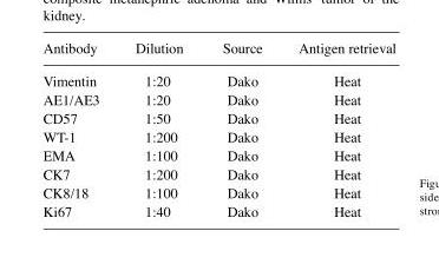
<table><thead><tr><td>Antibody</td><td>Dilution</td><td>Source</td><td>Antigen retrieval</td></tr></thead><tbody><tr><td>Vimentin</td><td>1:20</td><td>Dako</td><td>Heat</td></tr><tr><td>AE1/AE3</td><td>1:20</td><td>Dako</td><td>Heat</td></tr><tr><td>CD57</td><td>1:50</td><td>Dako</td><td>Heat</td></tr><tr><td>WT-1</td><td>1:200</td><td>Dako</td><td>Heat</td></tr><tr><td>EMA</td><td>1:100</td><td>Dako</td><td>Heat</td></tr><tr><td>CK7</td><td>1:200</td><td>Dako</td><td>Heat</td></tr><tr><td>CK8/18</td><td>1:100</td><td>Dako</td><td>Heat</td></tr><tr><td>Ki67</td><td>1:40</td><td>Dako</td><td>Heat</td></tr></tbody></table>